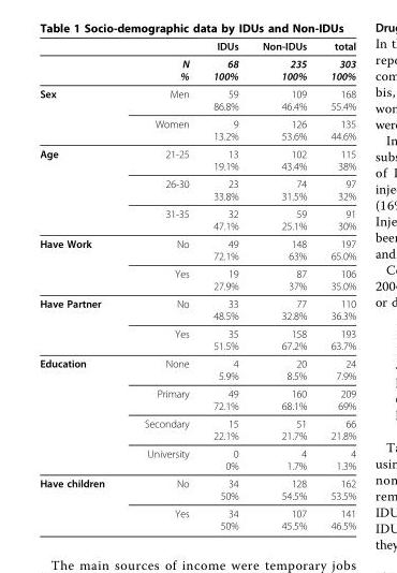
<table><thead><tr><td></td><td></td><td>IDUs</td><td>Non-IDUs</td><td>total</td></tr></thead><tbody><tr><td></td><td>N %</td><td>68 100%</td><td>235 100%</td><td>303 100%</td></tr><tr><td rowspan="2">Sex</td><td>Men</td><td>59 86.8%</td><td>109 46.4%</td><td>168 55.4%</td></tr><tr><td>Women</td><td>9 13.2%</td><td>126 53.6%</td><td>135 44.6%</td></tr><tr><td rowspan="3">Age</td><td>21-25</td><td>13 19.1%</td><td>102 43.4%</td><td>115 38%</td></tr><tr><td>26-30</td><td>23 33.8%</td><td>74 31.5%</td><td>97 32%</td></tr><tr><td>31-35</td><td>32 47.1%</td><td>59 25.1%</td><td>91 30%</td></tr><tr><td rowspan="2">Have Work</td><td>No</td><td>49 72.1%</td><td>148 63%</td><td>197 65.0%</td></tr><tr><td>Yes</td><td>19 27.9%</td><td>87 37%</td><td>106 35.0%</td></tr><tr><td rowspan="2">Have Partner</td><td>No</td><td>33 48.5%</td><td>77 32.8%</td><td>110 36.3%</td></tr><tr><td>Yes</td><td>35 51.5%</td><td>158 67.2%</td><td>193 63.7%</td></tr><tr><td rowspan="4">Education</td><td>None</td><td>4 5.9%</td><td>20 8.5%</td><td>24 7.9%</td></tr><tr><td>Primary</td><td>49 72.1%</td><td>160 68.1%</td><td>209 69%</td></tr><tr><td>Secondary</td><td>15 22.1%</td><td>51 21.7%</td><td>66 21.8%</td></tr><tr><td>University</td><td>0 0%</td><td>4 1.7%</td><td>4 1.3%</td></tr><tr><td rowspan="2">Have children</td><td>No</td><td>34 50%</td><td>128 54.5%</td><td>162 53.5%</td></tr><tr><td>Yes</td><td>34 50%</td><td>107 45.5%</td><td>141 46.5%</td></tr></tbody></table>